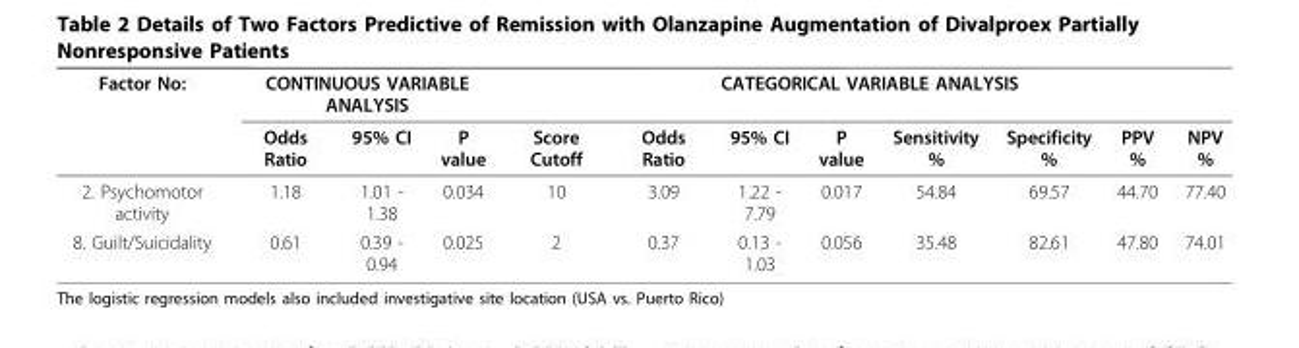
<table><thead><tr><td rowspan="2">Factor No:</td><td colspan="3">CONTINUOUS VARIABLE ANALYSIS</td><td colspan="8">CATEGORICAL VARIABLE ANALYSIS</td></tr><tr><td>Odds Ratio</td><td>95% CI</td><td>P value</td><td>Score Cutoff</td><td>Odds Ratio</td><td>95% CI</td><td>P value</td><td>Sensitivity %</td><td>Specificity %</td><td>PPV %</td><td>NPV %</td></tr></thead><tbody><tr><td>2. Psychomotor activity</td><td>1.18</td><td>1.01 - 1.38</td><td>0.034</td><td>10</td><td>3.09</td><td>1.22 - 7.79</td><td>0.017</td><td>54.84</td><td>69.57</td><td>44.70</td><td>77.40</td></tr><tr><td>8. Guilt/Suicidality</td><td>0.61</td><td>0.39 - 0.94</td><td>0.025</td><td>2</td><td>0.37</td><td>0.13 - 1.03</td><td>0.056</td><td>35.48</td><td>82.61</td><td>47.80</td><td>74.01</td></tr></tbody></table>